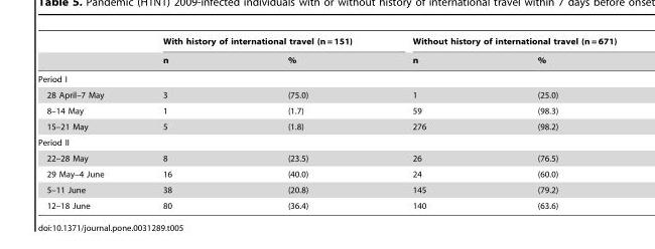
<table><thead><tr><td rowspan="2"></td><td colspan="2">With history of international travel (n = 151)</td><td colspan="2">Without history of international travel (n = 671)</td></tr><tr><td>n</td><td>%</td><td>n</td><td>%</td></tr></thead><tbody><tr><td colspan="5">Period I</td></tr><tr><td>28 April–7 May</td><td>3</td><td>(75.0)</td><td>1</td><td>(25.0)</td></tr><tr><td>8–14 May</td><td>1</td><td>(1.7)</td><td>59</td><td>(98.3)</td></tr><tr><td>15–21 May</td><td>5</td><td>(1.8)</td><td>276</td><td>(98.2)</td></tr><tr><td colspan="5">Period II</td></tr><tr><td>22–28 May</td><td>8</td><td>(23.5)</td><td>26</td><td>(76.5)</td></tr><tr><td>29 May–4 June</td><td>16</td><td>(40.0)</td><td>24</td><td>(60.0)</td></tr><tr><td>5–11 June</td><td>38</td><td>(20.8)</td><td>145</td><td>(79.2)</td></tr><tr><td>12–18 June</td><td>80</td><td>(36.4)</td><td>140</td><td>(63.6)</td></tr></tbody></table>